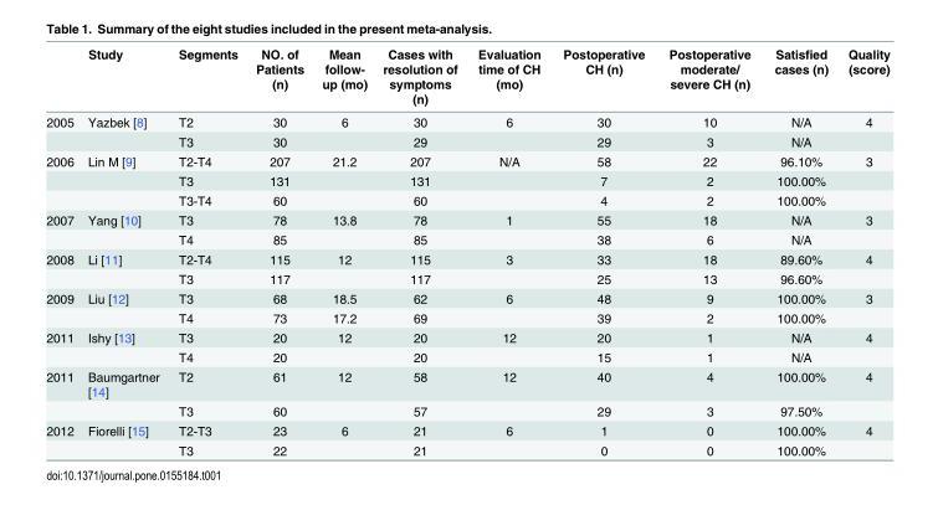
<table><thead><tr><td colspan="2">Study</td><td rowspan="2">Segments T2</td><td rowspan="2">NO. of Patients (n) 30</td><td rowspan="2">Mean follow- up (mo) 6</td><td rowspan="2">Cases with resolution of symptoms (n) 30</td><td rowspan="2">Evaluation time of CH (mo) 6</td><td rowspan="2">Postoperative CH (n) 30</td><td rowspan="2">Postoperative moderate/ severe CH (n) 10</td><td rowspan="2">Satisfied cases (n) N/A</td><td rowspan="2">Quality (score) 4</td></tr><tr><td>2005</td><td>Yazbek [8]</td></tr></thead><tbody><tr><td></td><td></td><td>T3</td><td>30</td><td></td><td>29</td><td></td><td>29</td><td>3</td><td>N/A</td><td></td></tr><tr><td rowspan="3">2006</td><td>Lin M [9]</td><td>T2-T4</td><td>207</td><td>21.2</td><td>207</td><td>N/A</td><td>58</td><td>22</td><td>96.10%</td><td>3</td></tr><tr><td></td><td>T3</td><td>131</td><td></td><td>131</td><td></td><td>7</td><td>2</td><td>100.00%</td><td></td></tr><tr><td></td><td>T3-T4</td><td>60</td><td></td><td>60</td><td></td><td>4</td><td>2</td><td>100.00%</td><td></td></tr><tr><td rowspan="2">2007</td><td>Yang [10]</td><td>T3</td><td>78</td><td>13.8</td><td>78</td><td>1</td><td>55</td><td>18</td><td>N/A</td><td>3</td></tr><tr><td></td><td>T4</td><td>85</td><td></td><td>85</td><td></td><td>38</td><td>6</td><td>N/A</td><td></td></tr><tr><td rowspan="2">2008</td><td>Li [11]</td><td>T2-T4</td><td>115</td><td>12</td><td>115</td><td>3</td><td>33</td><td>18</td><td>89.60%</td><td>4</td></tr><tr><td></td><td>T3</td><td>117</td><td></td><td>117</td><td></td><td>25</td><td>13</td><td>96.60%</td><td></td></tr><tr><td rowspan="2">2009</td><td>Liu [12]</td><td>T3</td><td>68</td><td>18.5</td><td>62</td><td>6</td><td>48</td><td>9</td><td>100.00%</td><td>3</td></tr><tr><td></td><td>T4</td><td>73</td><td>17.2</td><td>69</td><td></td><td>39</td><td>2</td><td>100.00%</td><td></td></tr><tr><td rowspan="2">2011</td><td>Ishy [13]</td><td>T3</td><td>20</td><td>12</td><td>20</td><td>12</td><td>20</td><td>1</td><td>N/A</td><td>4</td></tr><tr><td></td><td>T4</td><td>20</td><td></td><td>20</td><td></td><td>15</td><td>1</td><td>N/A</td><td></td></tr><tr><td rowspan="2">2011</td><td>Baumgartner [14]</td><td>T2</td><td>61</td><td>12</td><td>58</td><td>12</td><td>40</td><td>4</td><td>100.00%</td><td>4</td></tr><tr><td></td><td>T3</td><td>60</td><td></td><td>57</td><td></td><td>29</td><td>3</td><td>97.50%</td><td></td></tr><tr><td rowspan="2">2012</td><td>Fiorelli [15]</td><td>T2-T3</td><td>23</td><td>6</td><td>21</td><td>6</td><td>1</td><td>0</td><td>100.00%</td><td>4</td></tr><tr><td></td><td>T3</td><td>22</td><td></td><td>21</td><td></td><td>0</td><td>0</td><td>100.00%</td><td></td></tr></tbody></table>